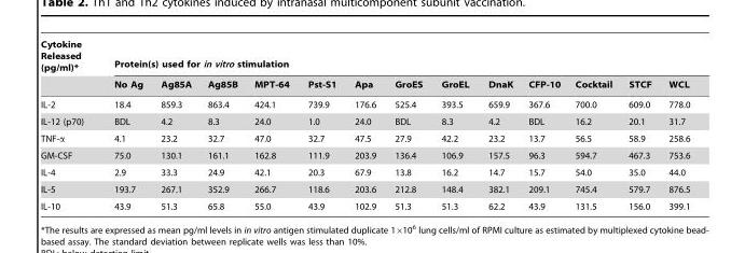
<table><thead><tr><td rowspan="2">Cytokine Released (pg/ml)*</td><td colspan="13">Protein(s) used for in vitro stimulation</td></tr><tr><td>No Ag</td><td>Ag85A</td><td>Ag85B</td><td>MPT-64</td><td>Pst-S1</td><td>Apa</td><td>GroES</td><td>GroEL</td><td>DnaK</td><td>CFP-10</td><td>Cocktail</td><td>STCF</td><td>WCL</td></tr></thead><tbody><tr><td>IL-2</td><td>18.4</td><td>859.3</td><td>863.4</td><td>424.1</td><td>739.9</td><td>176.6</td><td>525.4</td><td>393.5</td><td>659.9</td><td>367.6</td><td>700.0</td><td>609.0</td><td>778.0</td></tr><tr><td>IL-12 (p70)</td><td>BDL</td><td>4.2</td><td>8.3</td><td>24.0</td><td>1.0</td><td>24.0</td><td>BDL</td><td>8.3</td><td>4.2</td><td>BDL</td><td>16.2</td><td>20.1</td><td>31.7</td></tr><tr><td>TNF-α</td><td>4.1</td><td>23.2</td><td>32.7</td><td>47.0</td><td>32.7</td><td>47.5</td><td>27.9</td><td>42.2</td><td>23.2</td><td>13.7</td><td>56.5</td><td>58.9</td><td>258.6</td></tr><tr><td>GM-CSF</td><td>75.0</td><td>130.1</td><td>161.1</td><td>162.8</td><td>111.9</td><td>203.9</td><td>136.4</td><td>106.9</td><td>157.5</td><td>96.3</td><td>594.7</td><td>467.3</td><td>753.6</td></tr><tr><td>IL-4</td><td>2.9</td><td>33.3</td><td>24.9</td><td>42.1</td><td>20.3</td><td>67.9</td><td>13.8</td><td>16.2</td><td>14.7</td><td>15.7</td><td>54.0</td><td>35.0</td><td>44.0</td></tr><tr><td>IL-5</td><td>193.7</td><td>267.1</td><td>352.9</td><td>266.7</td><td>118.6</td><td>203.6</td><td>212.8</td><td>148.4</td><td>382.1</td><td>209.1</td><td>745.4</td><td>579.7</td><td>876.5</td></tr><tr><td>IL-10</td><td>43.9</td><td>51.3</td><td>65.8</td><td>55.0</td><td>43.9</td><td>102.9</td><td>51.3</td><td>51.3</td><td>62.2</td><td>43.9</td><td>131.5</td><td>156.0</td><td>399.1</td></tr></tbody></table>